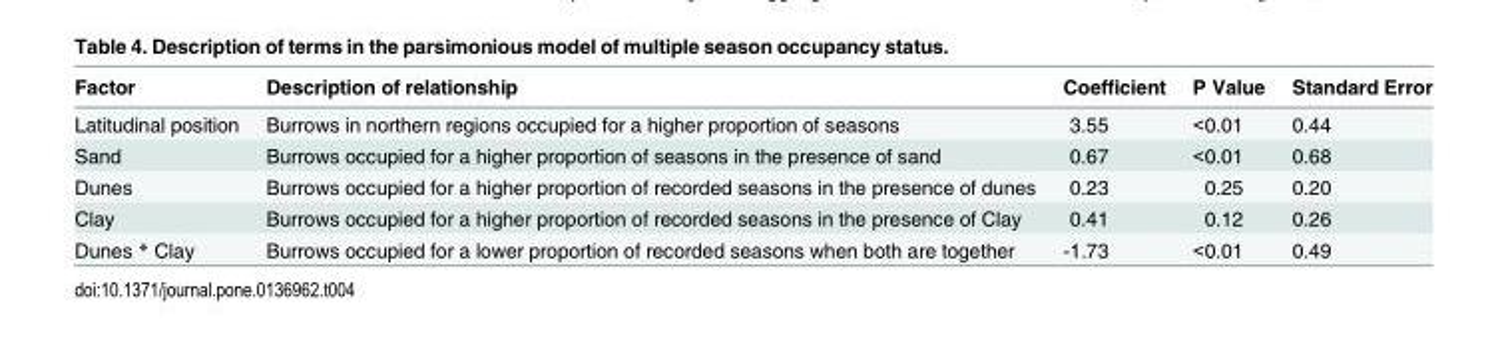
<table><thead><tr><td>Factor</td><td>Description of relationship</td><td>Coefficient</td><td>P Value</td><td>Standard Error</td></tr></thead><tbody><tr><td>Latitudinal position</td><td>Burrows in northern regions occupied for a higher proportion of seasons</td><td>3.55</td><td>&lt;0.01</td><td>0.44</td></tr><tr><td>Sand</td><td>Burrows occupied for a higher proportion of seasons in the presence of sand</td><td>0.67</td><td>&lt;0.01</td><td>0.68</td></tr><tr><td>Dunes</td><td>Burrows occupied for a higher proportion of recorded seasons in the presence of dunes</td><td>0.23</td><td>0.25</td><td>0.20</td></tr><tr><td>Clay</td><td>Burrows occupied for a higher proportion of recorded seasons in the presence of Clay</td><td>0.41</td><td>0.12</td><td>0.26</td></tr><tr><td>Dunes * Clay</td><td>Burrows occupied for a lower proportion of recorded seasons when both are together</td><td>-1.73</td><td>&lt;0.01</td><td>0.49</td></tr></tbody></table>